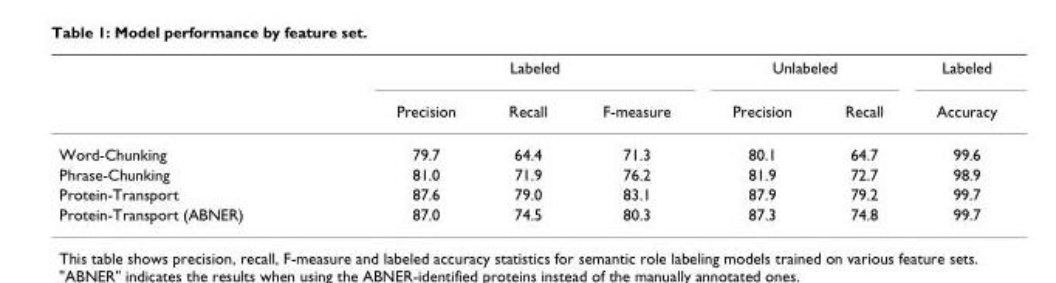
<table><thead><tr><td rowspan="2"></td><td colspan="3">Labeled</td><td colspan="2">Unlabeled</td><td rowspan="2">Labeled Accuracy</td></tr><tr><td>Precision</td><td>Recall</td><td>F-measure</td><td>Precision</td><td>Recall</td></tr></thead><tbody><tr><td>Word-Chunking</td><td>79.7</td><td>64.4</td><td>71.3</td><td>80.1</td><td>64.7</td><td>99.6</td></tr><tr><td>Phrase-Chunking</td><td>81.0</td><td>71.9</td><td>76.2</td><td>81.9</td><td>72.7</td><td>98.9</td></tr><tr><td>Protein-Transport</td><td>87.6</td><td>79.0</td><td>83.1</td><td>87.9</td><td>79.2</td><td>99.7</td></tr><tr><td>Protein-Transport (ABNER)</td><td>87.0</td><td>74.5</td><td>80.3</td><td>87.3</td><td>74.8</td><td>99.7</td></tr></tbody></table>